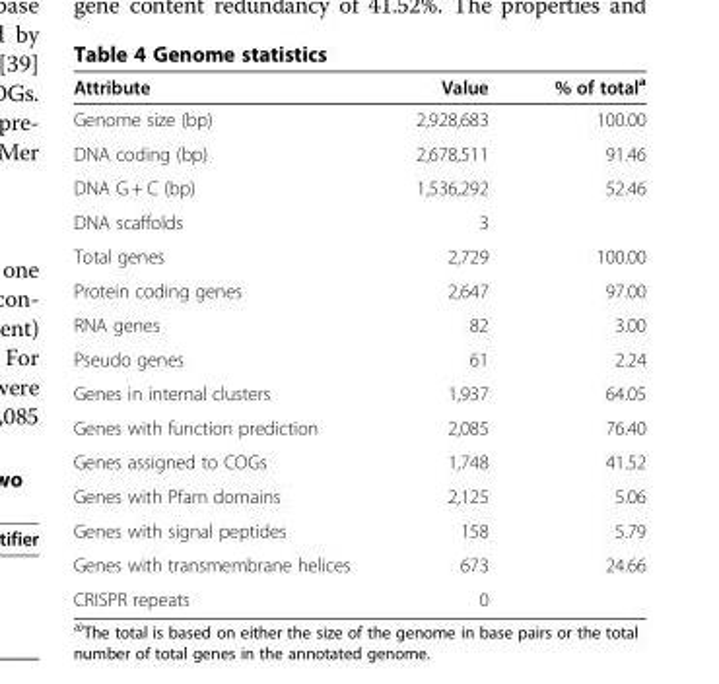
<table><thead><tr><td>Attribute</td><td>Value</td><td>% of total<sup>a</sup></td></tr></thead><tbody><tr><td>Genome size (bp)</td><td>2,928,683</td><td>100.00</td></tr><tr><td>DNA coding (bp)</td><td>2,678,511</td><td>91.46</td></tr><tr><td>DNA G + C (bp)</td><td>1,536,292</td><td>52.46</td></tr><tr><td>DNA scaffolds</td><td>3</td><td></td></tr><tr><td>Total genes</td><td>2,729</td><td>100.00</td></tr><tr><td>Protein coding genes</td><td>2,647</td><td>97.00</td></tr><tr><td>RNA genes</td><td>82</td><td>3.00</td></tr><tr><td>Pseudo genes</td><td>61</td><td>2.24</td></tr><tr><td>Genes in internal clusters</td><td>1,937</td><td>64.05</td></tr><tr><td>Genes with function prediction</td><td>2,085</td><td>76.40</td></tr><tr><td>Genes assigned to COGs</td><td>1,748</td><td>41.52</td></tr><tr><td>Genes with Pfam domains</td><td>2,125</td><td>5.06</td></tr><tr><td>Genes with signal peptides</td><td>158</td><td>5.79</td></tr><tr><td>Genes with transmembrane helices</td><td>673</td><td>24.66</td></tr><tr><td>CRISPR repeats</td><td>0</td><td></td></tr></tbody></table>